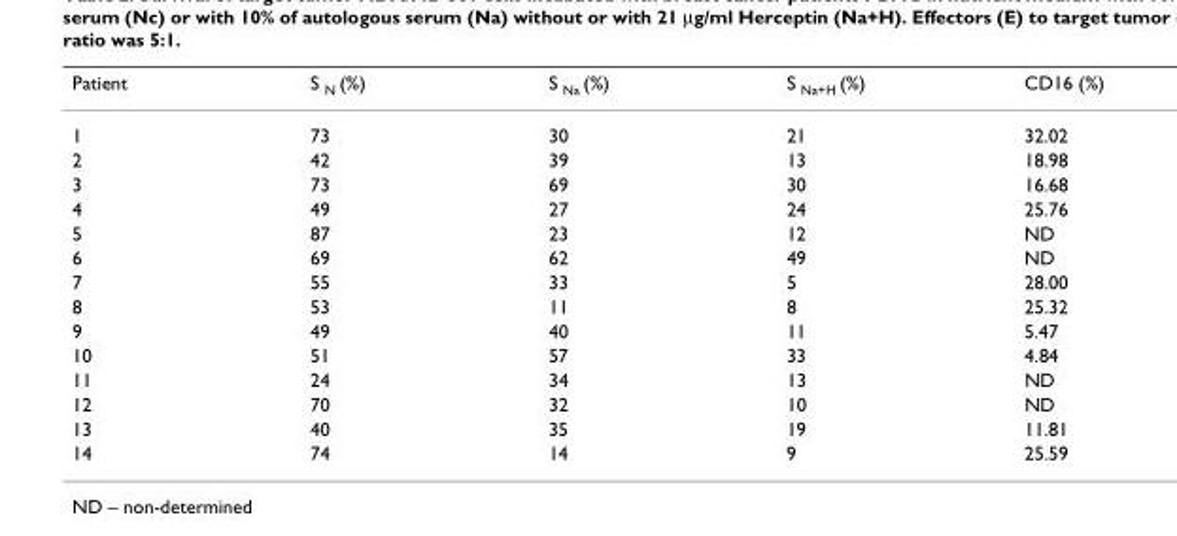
<table><thead><tr><td>Patient</td><td>S <sub>N</sub> (%)</td><td>S <sub>Na</sub> (%)</td><td>S <sub>Na+H</sub> (%)</td><td>CD16 (%)</td></tr></thead><tbody><tr><td>1</td><td>73</td><td>30</td><td>21</td><td>32.02</td></tr><tr><td>2</td><td>42</td><td>39</td><td>13</td><td>18.98</td></tr><tr><td>3</td><td>73</td><td>69</td><td>30</td><td>16.68</td></tr><tr><td>4</td><td>49</td><td>27</td><td>24</td><td>25.76</td></tr><tr><td>5</td><td>87</td><td>23</td><td>12</td><td>ND</td></tr><tr><td>6</td><td>69</td><td>62</td><td>49</td><td>ND</td></tr><tr><td>7</td><td>55</td><td>33</td><td>5</td><td>28.00</td></tr><tr><td>8</td><td>53</td><td>11</td><td>8</td><td>25.32</td></tr><tr><td>9</td><td>49</td><td>40</td><td>11</td><td>5.47</td></tr><tr><td>10</td><td>51</td><td>57</td><td>33</td><td>4.84</td></tr><tr><td>11</td><td>24</td><td>34</td><td>13</td><td>ND</td></tr><tr><td>12</td><td>70</td><td>32</td><td>10</td><td>ND</td></tr><tr><td>13</td><td>40</td><td>35</td><td>19</td><td>11.81</td></tr><tr><td>14</td><td>74</td><td>14</td><td>9</td><td>25.59</td></tr></tbody></table>